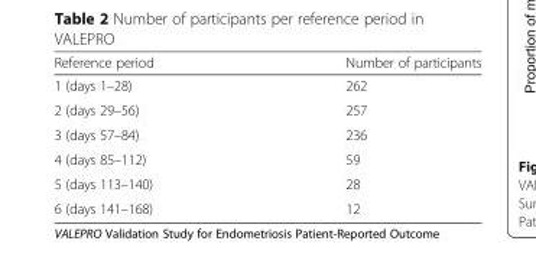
<table><thead><tr><td>Reference period</td><td>Number of participants</td></tr></thead><tbody><tr><td>1 (days 1–28)</td><td>262</td></tr><tr><td>2 (days 29–56)</td><td>257</td></tr><tr><td>3 (days 57–84)</td><td>236</td></tr><tr><td>4 (days 85–112)</td><td>59</td></tr><tr><td>5 (days 113–140)</td><td>28</td></tr><tr><td>6 (days 141–168)</td><td>12</td></tr></tbody></table>